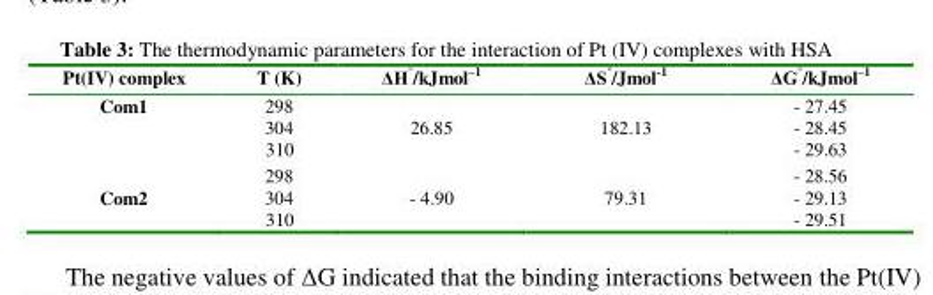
<table><thead><tr><td>Pt(IV) complex</td><td>T (K)</td><td>ΔH°/kJmol–1</td><td>ΔS°/Jmol-1</td><td>ΔG°/kJmol–1</td></tr></thead><tbody><tr><td>Com1</td><td>298 304 310</td><td>26.85</td><td>182.13</td><td>- 27.45 - 28.45 - 29.63</td></tr><tr><td>Com2</td><td>298 304 310</td><td>- 4.90</td><td>79.31</td><td>- 28.56 - 29.13 - 29.51</td></tr></tbody></table>